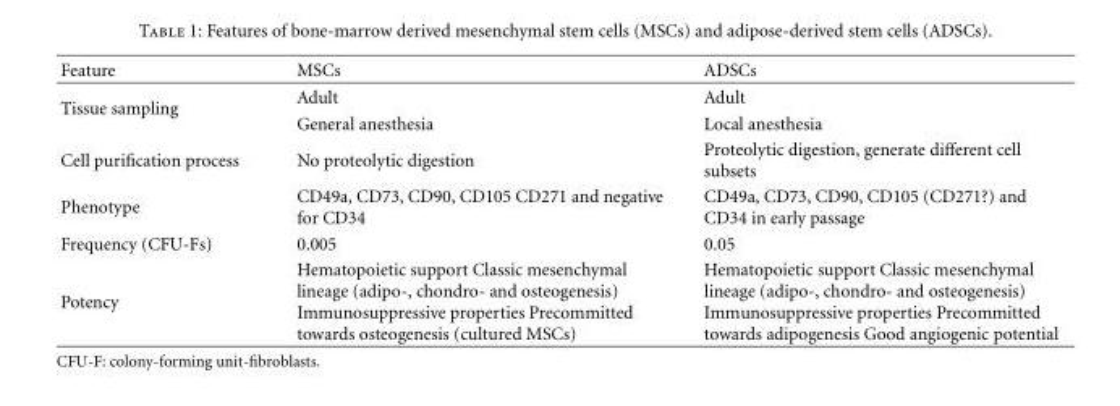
<table><thead><tr><td>Feature</td><td>MSCs</td><td>ADSCs</td></tr></thead><tbody><tr><td rowspan="2">Tissue sampling</td><td>Adult</td><td>Adult</td></tr><tr><td>General anesthesia</td><td>Local anesthesia</td></tr><tr><td>Cell purification process</td><td>No proteolytic digestion</td><td>Proteolytic digestion, generate different cell subsets</td></tr><tr><td>Phenotype</td><td>CD49a, CD73, CD90, CD105 CD271 and negative for CD34</td><td>CD49a, CD73, CD90, CD105 (CD271?) and CD34 in early passage</td></tr><tr><td>Frequency (CFU-Fs)</td><td>0.005</td><td>0.05</td></tr><tr><td>Potency</td><td>Hematopoietic support Classic mesenchymal lineage (adipo-, chondro- and osteogenesis) Immunosuppressive properties Precommitted towards osteogenesis (cultured MSCs)</td><td>Hematopoietic support Classic mesenchymal lineage (adipo-, chondro- and osteogenesis) Immunosuppressive properties Precommitted towards adipogenesis Good angiogenic potential</td></tr></tbody></table>